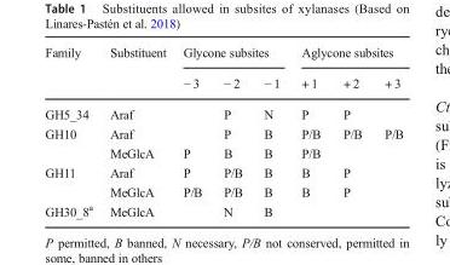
<table><thead><tr><td rowspan="2">Family</td><td rowspan="2">Substituent</td><td colspan="3">Glycone subsites</td><td colspan="3">Aglycone subsites</td></tr><tr><td>− 3</td><td>− 2</td><td>− 1</td><td>+ 1</td><td>+ 2</td><td>+ 3</td></tr></thead><tbody><tr><td>GH5_34</td><td>Araf</td><td></td><td>P</td><td>N</td><td>P</td><td>P</td><td></td></tr><tr><td rowspan="2">GH10</td><td>Araf</td><td></td><td>P</td><td>B</td><td>P/B</td><td>P/B</td><td>P/B</td></tr><tr><td>MeGlcA</td><td>P</td><td>B</td><td>B</td><td>P/B</td><td></td><td></td></tr><tr><td rowspan="2">GH11</td><td>Araf</td><td>P</td><td>P/B</td><td>B</td><td>B</td><td>P</td><td></td></tr><tr><td>MeGlcA</td><td>P/B</td><td>P/B</td><td>B</td><td>B</td><td>P</td><td></td></tr><tr><td>GH30_8<sup>a</sup></td><td>MeGlcA</td><td></td><td>N</td><td>B</td><td></td><td></td><td></td></tr></tbody></table>